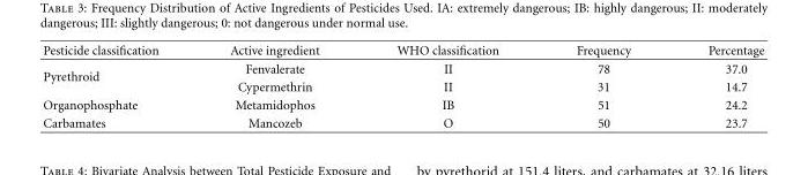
<table><thead><tr><td>Pesticide classification</td><td>Active ingredient</td><td>WHO classification</td><td>Frequency</td><td>Percentage</td></tr></thead><tbody><tr><td rowspan="2">Pyrethroid</td><td>Fenvalerate</td><td>II</td><td>78</td><td>37.0</td></tr><tr><td>Cypermethrin</td><td>II</td><td>31</td><td>14.7</td></tr><tr><td>Organophosphate</td><td>Metamidophos</td><td>IB</td><td>51</td><td>24.2</td></tr><tr><td>Carbamates</td><td>Mancozeb</td><td>O</td><td>50</td><td>23.7</td></tr></tbody></table>